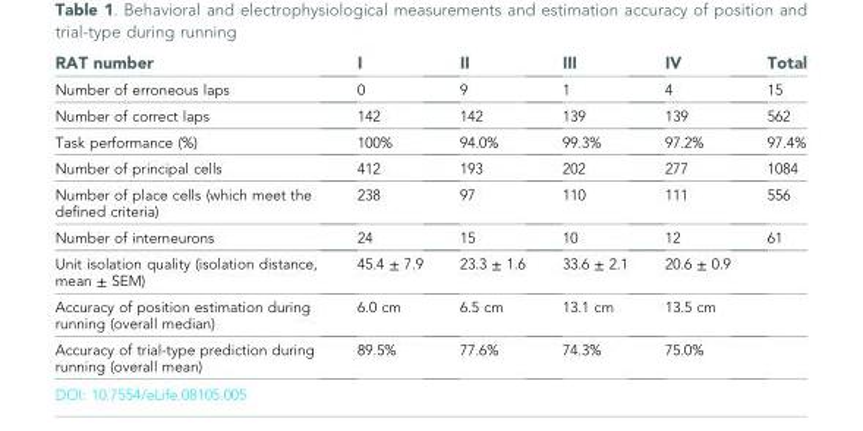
<table><thead><tr><td>RAT number</td><td>I</td><td>II</td><td>III</td><td>IV</td><td>Total</td></tr></thead><tbody><tr><td>Number of erroneous laps</td><td>0</td><td>9</td><td>1</td><td>4</td><td>15</td></tr><tr><td>Number of correct laps</td><td>142</td><td>142</td><td>139</td><td>139</td><td>562</td></tr><tr><td>Task performance (%)</td><td>100%</td><td>94.0%</td><td>99.3%</td><td>97.2%</td><td>97.4%</td></tr><tr><td>Number of principal cells</td><td>412</td><td>193</td><td>202</td><td>277</td><td>1084</td></tr><tr><td>Number of place cells (which meet the defined criteria)</td><td>238</td><td>97</td><td>110</td><td>111</td><td>556</td></tr><tr><td>Number of interneurons</td><td>24</td><td>15</td><td>10</td><td>12</td><td>61</td></tr><tr><td>Unit isolation quality (isolation distance, mean ± SEM)</td><td>45.4 ± 7.9</td><td>23.3 ± 1.6</td><td>33.6 ± 2.1</td><td>20.6 ± 0.9</td><td></td></tr><tr><td>Accuracy of position estimation during running (overall median)</td><td>6.0 cm</td><td>6.5 cm</td><td>13.1 cm</td><td>13.5 cm</td><td></td></tr><tr><td>Accuracy of trial-type prediction during running (overall mean)</td><td>89.5%</td><td>77.6%</td><td>74.3%</td><td>75.0%</td><td></td></tr></tbody></table>